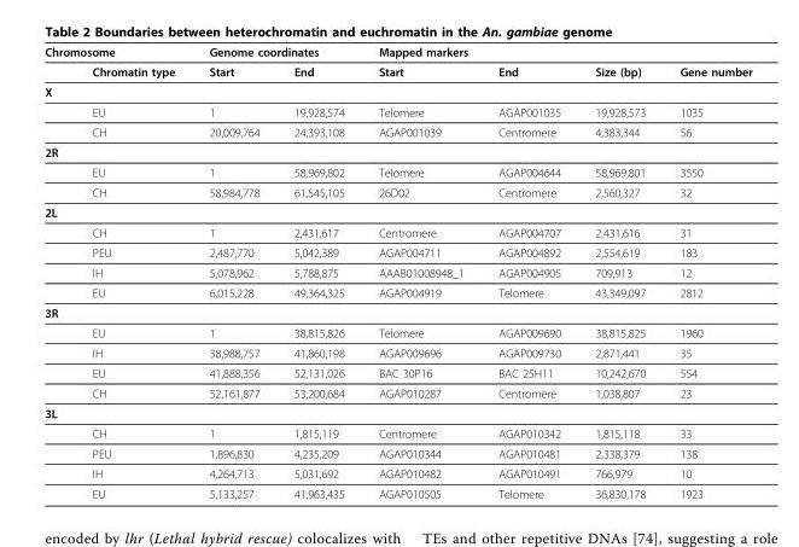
<table><thead><tr><td colspan="2">Chromosome</td><td colspan="2">Genome coordinates</td><td colspan="2">Mapped markers</td><td rowspan="2">Size (bp)</td><td rowspan="2">Gene number</td></tr><tr><td></td><td>Chromatin type</td><td>Start</td><td>End</td><td>Start</td><td>End</td></tr></thead><tbody><tr><td colspan="8">X</td></tr><tr><td></td><td>EU</td><td>1</td><td>19,928,574</td><td>Telomere</td><td>AGAP001035</td><td>19,928,573</td><td>1035</td></tr><tr><td></td><td>CH</td><td>20,009,764</td><td>24,393,108</td><td>AGAP001039</td><td>Centromere</td><td>4,383,344</td><td>56</td></tr><tr><td colspan="8">2R</td></tr><tr><td></td><td>EU</td><td>1</td><td>58,969,802</td><td>Telomere</td><td>AGAP004644</td><td>58,969,801</td><td>3550</td></tr><tr><td></td><td>CH</td><td>58,984,778</td><td>61,545,105</td><td>26D02</td><td>Centromere</td><td>2,560,327</td><td>32</td></tr><tr><td colspan="8">2L</td></tr><tr><td></td><td>CH</td><td>1</td><td>2,431,617</td><td>Centromere</td><td>AGAP004707</td><td>2,431,616</td><td>31</td></tr><tr><td></td><td>PEU</td><td>2,487,770</td><td>5,042,389</td><td>AGAP004711</td><td>AGAP004892</td><td>2,554,619</td><td>183</td></tr><tr><td></td><td>IH</td><td>5,078,962</td><td>5,788,875</td><td>AAAB01008948_1</td><td>AGAP004905</td><td>709,913</td><td>12</td></tr><tr><td></td><td>EU</td><td>6,015,228</td><td>49,364,325</td><td>AGAP004919</td><td>Telomere</td><td>43,349,097</td><td>2812</td></tr><tr><td colspan="8">3R</td></tr><tr><td></td><td>EU</td><td>1</td><td>38,815,826</td><td>Telomere</td><td>AGAP009690</td><td>38,815,825</td><td>1960</td></tr><tr><td></td><td>IH</td><td>38,988,757</td><td>41,860,198</td><td>AGAP009696</td><td>AGAP009730</td><td>2,871,441</td><td>35</td></tr><tr><td></td><td>EU</td><td>41,888,356</td><td>52,131,026</td><td>BAC 30P16</td><td>BAC 25H11</td><td>10,242,670</td><td>554</td></tr><tr><td></td><td>CH</td><td>52,161,877</td><td>53,200,684</td><td>AGAP010287</td><td>Centromere</td><td>1,038,807</td><td>23</td></tr><tr><td colspan="8">3L</td></tr><tr><td></td><td>CH</td><td>1</td><td>1,815,119</td><td>Centromere</td><td>AGAP010342</td><td>1,815,118</td><td>33</td></tr><tr><td></td><td>PEU</td><td>1,896,830</td><td>4,235,209</td><td>AGAP010344</td><td>AGAP010481</td><td>2,338,379</td><td>138</td></tr><tr><td></td><td>IH</td><td>4,264,713</td><td>5,031,692</td><td>AGAP010482</td><td>AGAP010491</td><td>766,979</td><td>10</td></tr><tr><td></td><td>EU</td><td>5,133,257</td><td>41,963,435</td><td>AGAP010505</td><td>Telomere</td><td>36,830,178</td><td>1923</td></tr></tbody></table>